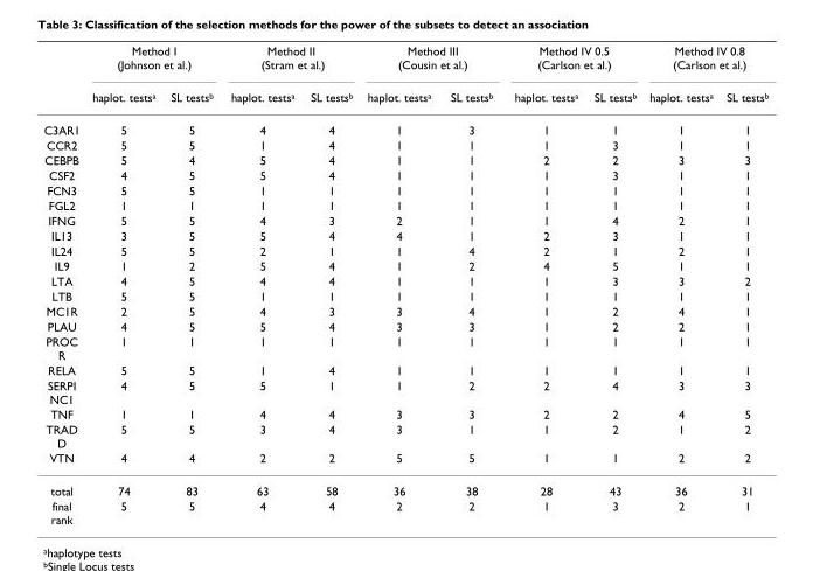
<table><thead><tr><td rowspan="2"></td><td colspan="2">Method I (Johnson et al.)</td><td colspan="2">Method II (Stram et al.)</td><td colspan="2">Method III (Cousin et al.)</td><td colspan="2">Method IV 0.5 (Carlson et al.)</td><td colspan="2">Method IV 0.8 (Carlson et al.)</td></tr><tr><td>haplot. tests<sup>a</sup></td><td>SL tests<sup>b</sup></td><td>haplot. tests<sup>a</sup></td><td>SL tests<sup>b</sup></td><td>haplot. tests<sup>a</sup></td><td>SL tests<sup>b</sup></td><td>haplot. tests<sup>a</sup></td><td>SL tests<sup>b</sup></td><td>haplot. tests<sup>a</sup></td><td>SL tests<sup>b</sup></td></tr></thead><tbody><tr><td>C3AR1</td><td>5</td><td>5</td><td>4</td><td>4</td><td>1</td><td>3</td><td>1</td><td>1</td><td>1</td><td>1</td></tr><tr><td>CCR2</td><td>5</td><td>5</td><td>1</td><td>4</td><td>1</td><td>1</td><td>1</td><td>3</td><td>1</td><td>1</td></tr><tr><td>CEBPB</td><td>5</td><td>4</td><td>5</td><td>4</td><td>1</td><td>1</td><td>2</td><td>2</td><td>3</td><td>3</td></tr><tr><td>CSF2</td><td>4</td><td>5</td><td>5</td><td>4</td><td>1</td><td>1</td><td>1</td><td>3</td><td>1</td><td>1</td></tr><tr><td>FCN3</td><td>5</td><td>5</td><td>1</td><td>1</td><td>1</td><td>1</td><td>1</td><td>1</td><td>1</td><td>1</td></tr><tr><td>FGL2</td><td>1</td><td>1</td><td>1</td><td>1</td><td>1</td><td>1</td><td>1</td><td>1</td><td>1</td><td>1</td></tr><tr><td>IFNG</td><td>5</td><td>5</td><td>4</td><td>3</td><td>2</td><td>1</td><td>1</td><td>4</td><td>2</td><td>1</td></tr><tr><td>IL13</td><td>3</td><td>5</td><td>5</td><td>4</td><td>4</td><td>1</td><td>2</td><td>3</td><td>1</td><td>1</td></tr><tr><td>IL24</td><td>5</td><td>5</td><td>2</td><td>1</td><td>1</td><td>4</td><td>2</td><td>1</td><td>2</td><td>1</td></tr><tr><td>IL9</td><td>1</td><td>2</td><td>5</td><td>4</td><td>1</td><td>2</td><td>4</td><td>5</td><td>1</td><td>1</td></tr><tr><td>LTA</td><td>4</td><td>5</td><td>4</td><td>4</td><td>1</td><td>1</td><td>1</td><td>3</td><td>3</td><td>2</td></tr><tr><td>LTB</td><td>5</td><td>5</td><td>1</td><td>1</td><td>1</td><td>1</td><td>1</td><td>1</td><td>1</td><td>1</td></tr><tr><td>MC1R</td><td>2</td><td>5</td><td>4</td><td>3</td><td>3</td><td>4</td><td>1</td><td>2</td><td>4</td><td>1</td></tr><tr><td>PLAU</td><td>4</td><td>5</td><td>5</td><td>4</td><td>3</td><td>3</td><td>1</td><td>2</td><td>2</td><td>1</td></tr><tr><td>PROC R</td><td>1</td><td>1</td><td>1</td><td>1</td><td>1</td><td>1</td><td>1</td><td>1</td><td>1</td><td>1</td></tr><tr><td>RELA</td><td>5</td><td>5</td><td>1</td><td>4</td><td>1</td><td>1</td><td>1</td><td>1</td><td>1</td><td>1</td></tr><tr><td>SERPI NC1</td><td>4</td><td>5</td><td>5</td><td>1</td><td>1</td><td>2</td><td>2</td><td>4</td><td>3</td><td>3</td></tr><tr><td>TNF</td><td>1</td><td>1</td><td>4</td><td>4</td><td>3</td><td>3</td><td>2</td><td>2</td><td>4</td><td>5</td></tr><tr><td>TRAD D</td><td>5</td><td>5</td><td>3</td><td>4</td><td>3</td><td>1</td><td>1</td><td>2</td><td>1</td><td>2</td></tr><tr><td>VTN</td><td>4</td><td>4</td><td>2</td><td>2</td><td>5</td><td>5</td><td>1</td><td>1</td><td>2</td><td>2</td></tr><tr><td>total</td><td>74</td><td>83</td><td>63</td><td>58</td><td>36</td><td>38</td><td>28</td><td>43</td><td>36</td><td>31</td></tr><tr><td>final rank</td><td>5</td><td>5</td><td>4</td><td>4</td><td>2</td><td>2</td><td>1</td><td>3</td><td>2</td><td>1</td></tr></tbody></table>